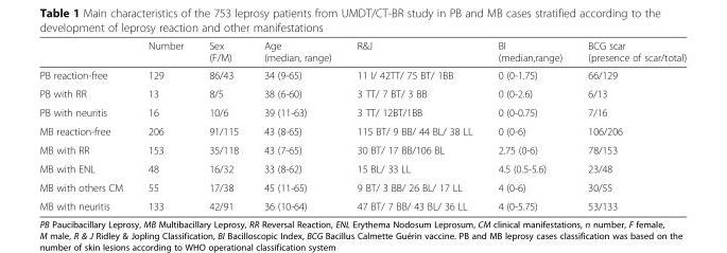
<table><thead><tr><td></td><td>Number</td><td>Sex (F/M)</td><td>Age (median, range)</td><td>R&amp;J</td><td>BI (median,range)</td><td>BCG scar (presence of scar/total)</td></tr></thead><tbody><tr><td>PB reaction-free</td><td>129</td><td>86/43</td><td>34 (9-65)</td><td>11 I/ 42TT/ 75 BT/ 1BB</td><td>0 (0-1.75)</td><td>66/129</td></tr><tr><td>PB with RR</td><td>13</td><td>8/5</td><td>38 (6-60)</td><td>3 TT/ 7 BT/ 3 BB</td><td>0 (0-2.6)</td><td>6/13</td></tr><tr><td>PB with neuritis</td><td>16</td><td>10/6</td><td>39 (11-63)</td><td>3 TT/ 12BT/1BB</td><td>0 (0-0.75)</td><td>7/16</td></tr><tr><td>MB reaction-free</td><td>206</td><td>91/115</td><td>43 (8-65)</td><td>115 BT/ 9 BB/ 44 BL/ 38 LL</td><td>0 (0-6)</td><td>106/206</td></tr><tr><td>MB with RR</td><td>153</td><td>35/118</td><td>43 (7-65)</td><td>30 BT/ 17 BB/106 BL</td><td>2.75 (0-6)</td><td>78/153</td></tr><tr><td>MB with ENL</td><td>48</td><td>16/32</td><td>33 (8-62)</td><td>15 BL/ 33 LL</td><td>4.5 (0.5-5.6)</td><td>23/48</td></tr><tr><td>MB with others CM</td><td>55</td><td>17/38</td><td>45 (11-65)</td><td>9 BT/ 3 BB/ 26 BL/ 17 LL</td><td>4 (0-6)</td><td>30/55</td></tr><tr><td>MB with neuritis</td><td>133</td><td>42/91</td><td>36 (10-64)</td><td>47 BT/ 7 BB/ 43 BL/ 36 LL</td><td>4 (0-5.75)</td><td>53/133</td></tr></tbody></table>